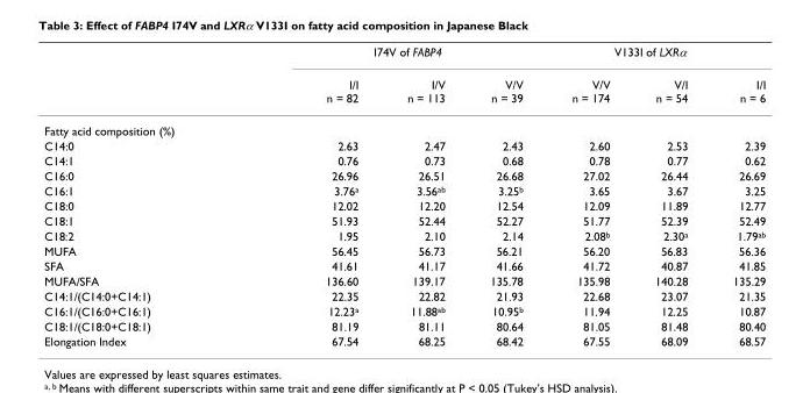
<table><thead><tr><td rowspan="2"></td><td colspan="3">I74V of FABP4</td><td colspan="3">V133I of LXRα</td></tr><tr><td>I/I n = 82</td><td>I/V n = 113</td><td>V/V n = 39</td><td>V/V n = 174</td><td>V/I n = 54</td><td>I/I n = 6</td></tr></thead><tbody><tr><td colspan="7">Fatty acid composition (%)</td></tr><tr><td>C14:0</td><td>2.63</td><td>2.47</td><td>2.43</td><td>2.60</td><td>2.53</td><td>2.39</td></tr><tr><td>C14:1</td><td>0.76</td><td>0.73</td><td>0.68</td><td>0.78</td><td>0.77</td><td>0.62</td></tr><tr><td>C16:0</td><td>26.96</td><td>26.51</td><td>26.68</td><td>27.02</td><td>26.44</td><td>26.69</td></tr><tr><td>C16:1</td><td>3.76<sup>a</sup></td><td>3.56<sup>ab</sup></td><td>3.25<sup>b</sup></td><td>3.65</td><td>3.67</td><td>3.25</td></tr><tr><td>C18:0</td><td>12.02</td><td>12.20</td><td>12.54</td><td>12.09</td><td>11.89</td><td>12.77</td></tr><tr><td>C18:1</td><td>51.93</td><td>52.44</td><td>52.27</td><td>51.77</td><td>52.39</td><td>52.49</td></tr><tr><td>C18:2</td><td>1.95</td><td>2.10</td><td>2.14</td><td>2.08<sup>b</sup></td><td>2.30<sup>a</sup></td><td>1.79<sup>ab</sup></td></tr><tr><td>MUFA</td><td>56.45</td><td>56.73</td><td>56.21</td><td>56.20</td><td>56.83</td><td>56.36</td></tr><tr><td>SFA</td><td>41.61</td><td>41.17</td><td>41.66</td><td>41.72</td><td>40.87</td><td>41.85</td></tr><tr><td>MUFA/SFA</td><td>136.60</td><td>139.17</td><td>135.78</td><td>135.98</td><td>140.28</td><td>135.29</td></tr><tr><td>C14:1/(C14:0+C14:1)</td><td>22.35</td><td>22.82</td><td>21.93</td><td>22.68</td><td>23.07</td><td>21.35</td></tr><tr><td>C16:1/(C16:0+C16:1)</td><td>12.23<sup>a</sup></td><td>11.88<sup>ab</sup></td><td>10.95<sup>b</sup></td><td>11.94</td><td>12.25</td><td>10.87</td></tr><tr><td>C18:1/(C18:0+C18:1)</td><td>81.19</td><td>81.11</td><td>80.64</td><td>81.05</td><td>81.48</td><td>80.40</td></tr><tr><td>Elongation Index</td><td>67.54</td><td>68.25</td><td>68.42</td><td>67.55</td><td>68.09</td><td>68.57</td></tr></tbody></table>